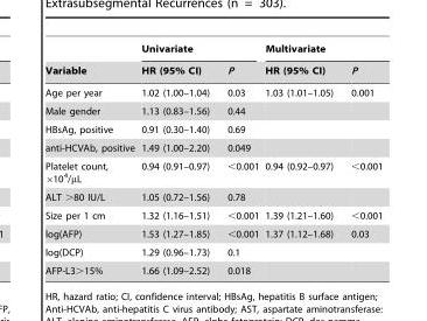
<table><thead><tr><td rowspan="2">Variable</td><td colspan="2">Univariate</td><td colspan="2">Multivariate</td></tr><tr><td>HR (95% CI)</td><td>P</td><td>HR (95% CI)</td><td>P</td></tr></thead><tbody><tr><td>Age per year</td><td>1.02 (1.00–1.04)</td><td>0.03</td><td>1.03 (1.01–1.05)</td><td>0.001</td></tr><tr><td>Male gender</td><td>1.13 (0.83–1.56)</td><td>0.44</td><td></td><td></td></tr><tr><td>HBsAg, positive</td><td>0.91 (0.30–1.40)</td><td>0.69</td><td></td><td></td></tr><tr><td>anti-HCVAb, positive</td><td>1.49 (1.00–2.20)</td><td>0.049</td><td></td><td></td></tr><tr><td>Platelet count, ×10<sup>4</sup>/μL</td><td>0.94 (0.91–0.97)</td><td>&lt;0.001</td><td>0.94 (0.92–0.97)</td><td>&lt;0.001</td></tr><tr><td>ALT &gt;80 IU/L</td><td>1.05 (0.72–1.56)</td><td>0.78</td><td></td><td></td></tr><tr><td>Size per 1 cm</td><td>1.32 (1.16–1.51)</td><td>&lt;0.001</td><td>1.39 (1.21–1.60)</td><td>&lt;0.001</td></tr><tr><td>log(AFP)</td><td>1.53 (1.27–1.85)</td><td>&lt;0.001</td><td>1.37 (1.12–1.68)</td><td>0.03</td></tr><tr><td>log(DCP)</td><td>1.29 (0.96–1.73)</td><td>0.1</td><td></td><td></td></tr><tr><td>AFP-L3&gt;15%</td><td>1.66 (1.09–2.52)</td><td>0.018</td><td></td><td></td></tr></tbody></table>